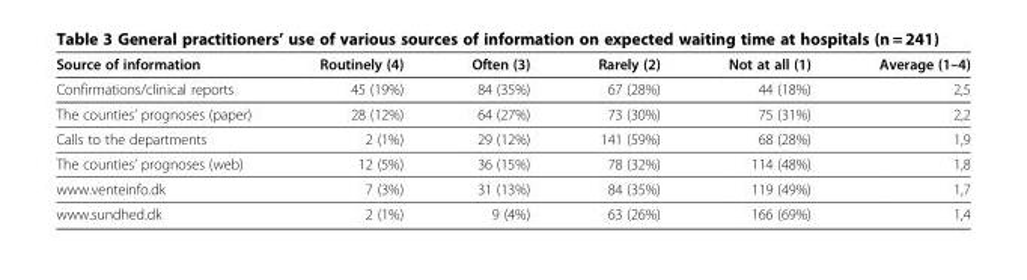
<table><thead><tr><td>Source of information</td><td>Routinely (4)</td><td>Often (3)</td><td>Rarely (2)</td><td>Not at all (1)</td><td>Average (1–4)</td></tr></thead><tbody><tr><td>Confirmations/clinical reports</td><td>45 (19%)</td><td>84 (35%)</td><td>67 (28%)</td><td>44 (18%)</td><td>2,5</td></tr><tr><td>The counties’ prognoses (paper)</td><td>28 (12%)</td><td>64 (27%)</td><td>73 (30%)</td><td>75 (31%)</td><td>2,2</td></tr><tr><td>Calls to the departments</td><td>2 (1%)</td><td>29 (12%)</td><td>141 (59%)</td><td>68 (28%)</td><td>1,9</td></tr><tr><td>The counties’ prognoses (web)</td><td>12 (5%)</td><td>36 (15%)</td><td>78 (32%)</td><td>114 (48%)</td><td>1,8</td></tr><tr><td>www.venteinfo.dk</td><td>7 (3%)</td><td>31 (13%)</td><td>84 (35%)</td><td>119 (49%)</td><td>1,7</td></tr><tr><td>www.sundhed.dk</td><td>2 (1%)</td><td>9 (4%)</td><td>63 (26%)</td><td>166 (69%)</td><td>1,4</td></tr></tbody></table>